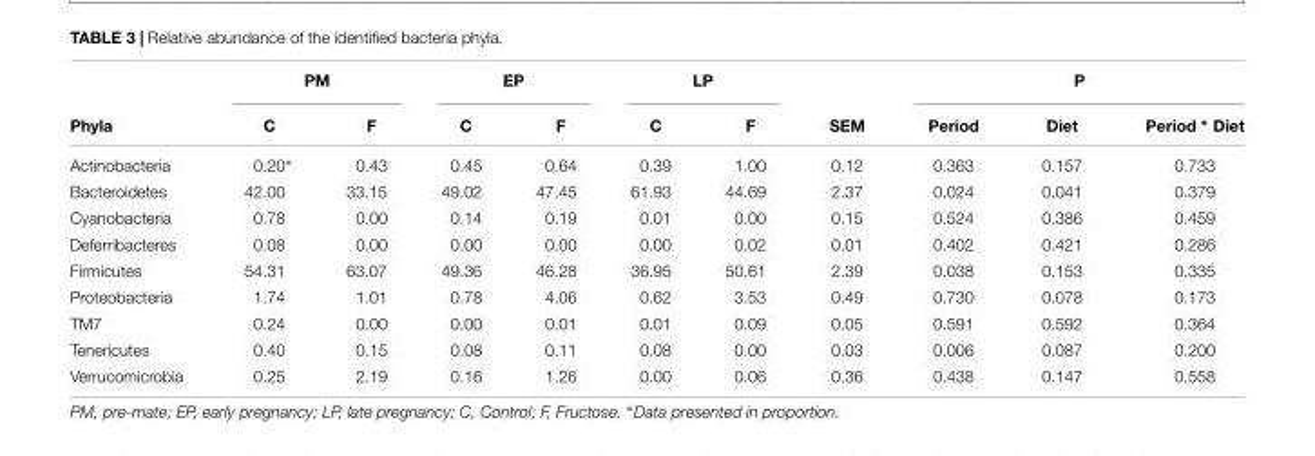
<table><thead><tr><td rowspan="2">Phyla</td><td colspan="2">PM</td><td colspan="2">EP</td><td colspan="2">LP</td><td rowspan="2">SEM</td><td colspan="3">P</td></tr><tr><td>C</td><td>F</td><td>C</td><td>F</td><td>C</td><td>F</td><td>Period</td><td>Diet</td><td>Period ∗ Diet</td></tr></thead><tbody><tr><td>Actinobacteria</td><td>0.20∗</td><td>0.43</td><td>0.45</td><td>0.64</td><td>0.39</td><td>1.00</td><td>0.12</td><td>0.363</td><td>0.157</td><td>0.733</td></tr><tr><td>Bacteroidetes</td><td>42.00</td><td>33.15</td><td>49.02</td><td>47.45</td><td>61.93</td><td>44.69</td><td>2.37</td><td>0.024</td><td>0.041</td><td>0.379</td></tr><tr><td>Cyanobacteria</td><td>0.78</td><td>0.00</td><td>0.14</td><td>0.19</td><td>0.01</td><td>0.00</td><td>0.15</td><td>0.524</td><td>0.386</td><td>0.459</td></tr><tr><td>Deferribacteres</td><td>0.08</td><td>0.00</td><td>0.00</td><td>0.00</td><td>0.00</td><td>0.02</td><td>0.01</td><td>0.402</td><td>0.421</td><td>0.286</td></tr><tr><td>Firmicutes</td><td>54.31</td><td>63.07</td><td>49.36</td><td>46.28</td><td>36.95</td><td>50.61</td><td>2.39</td><td>0.038</td><td>0.153</td><td>0.335</td></tr><tr><td>Proteobacteria</td><td>1.74</td><td>1.01</td><td>0.78</td><td>4.06</td><td>0.62</td><td>3.53</td><td>0.49</td><td>0.730</td><td>0.078</td><td>0.173</td></tr><tr><td>TM7</td><td>0.24</td><td>0.00</td><td>0.00</td><td>0.01</td><td>0.01</td><td>0.09</td><td>0.05</td><td>0.591</td><td>0.592</td><td>0.364</td></tr><tr><td>Tenericutes</td><td>0.40</td><td>0.15</td><td>0.08</td><td>0.11</td><td>0.08</td><td>0.00</td><td>0.03</td><td>0.006</td><td>0.087</td><td>0.200</td></tr><tr><td>Verrucomicrobia</td><td>0.25</td><td>2.19</td><td>0.16</td><td>1.26</td><td>0.00</td><td>0.06</td><td>0.36</td><td>0.438</td><td>0.147</td><td>0.558</td></tr></tbody></table>